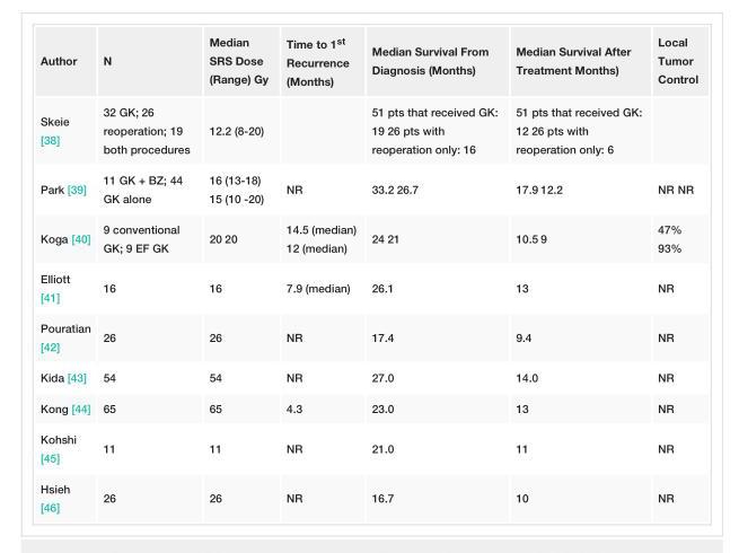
<table><tbody><tr><td>Author</td><td>N</td><td>Median SRS Dose (Range) Gy</td><td>Time to 1<sup>st</sup> Recurrence (Months)</td><td>Median Survival From Diagnosis (Months)</td><td>Median Survival After Treatment Months)</td><td>Local Tumor Control</td></tr><tr><td>Skeie [38]</td><td>32 GK; 26 reoperation; 19 both procedures</td><td>12.2 (8-20)</td><td></td><td>51 pts that received GK: 19 26 pts with reoperation only: 16</td><td>51 pts that received GK: 12 26 pts with reoperation only: 6</td><td></td></tr><tr><td>Park [39]</td><td>11 GK + BZ; 44 GK alone</td><td>16 (13-18) 15 (10 -20)</td><td>NR</td><td>33.2 26.7</td><td>17.9 12.2</td><td>NR NR</td></tr><tr><td>Koga [40]</td><td>9 conventional GK; 9 EF GK</td><td>20 20</td><td>14.5 (median) 12 (median)</td><td>24 21</td><td>10.5 9</td><td>47% 93%</td></tr><tr><td>Elliott [41]</td><td>16</td><td>16</td><td>7.9 (median)</td><td>26.1</td><td>13</td><td>NR</td></tr><tr><td>Pouratian [42]</td><td>26</td><td>26</td><td>NR</td><td>17.4</td><td>9.4</td><td>NR</td></tr><tr><td>Kida [43]</td><td>54</td><td>54</td><td>NR</td><td>27.0</td><td>14.0</td><td>NR</td></tr><tr><td>Kong [44]</td><td>65</td><td>65</td><td>4.3</td><td>23.0</td><td>13</td><td>NR</td></tr><tr><td>Kohshi [45]</td><td>11</td><td>11</td><td>NR</td><td>21.0</td><td>11</td><td>NR</td></tr><tr><td>Hsieh [46]</td><td>26</td><td>26</td><td>NR</td><td>16.7</td><td>10</td><td>NR</td></tr></tbody></table>